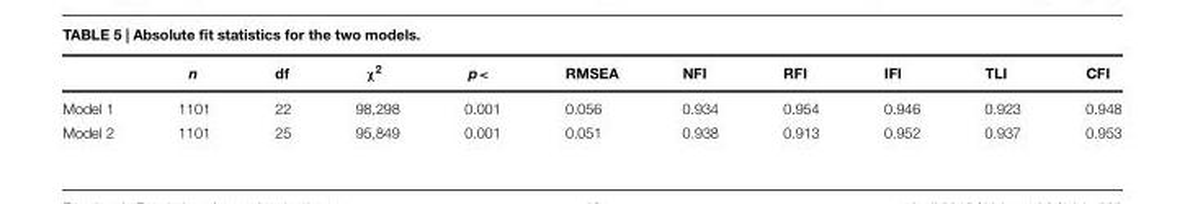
<table><thead><tr><td></td><td>n</td><td>df</td><td>χ<sup>2</sup></td><td>p&lt;</td><td>RMSEA</td><td>NFI</td><td>RFI</td><td>IFI</td><td>TLI</td><td>CFI</td></tr></thead><tbody><tr><td>Model 1</td><td>1101</td><td>22</td><td>98,298</td><td>0.001</td><td>0.056</td><td>0.934</td><td>0.954</td><td>0.946</td><td>0.923</td><td>0.948</td></tr><tr><td>Model 2</td><td>1101</td><td>25</td><td>95,849</td><td>0.001</td><td>0.051</td><td>0.938</td><td>0.913</td><td>0.952</td><td>0.937</td><td>0.953</td></tr></tbody></table>